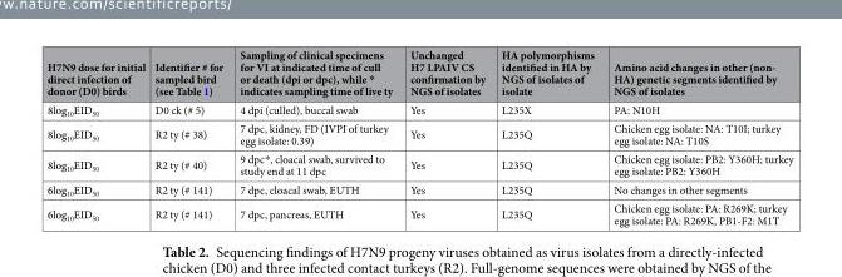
<table><thead><tr><td>H7N9 dose for initial direct infection of donor (D0) birds</td><td>Identifier # for sampled bird (see Table 1)</td><td>Sampling of clinical specimens for VI at indicated time of cull or death (dpi or dpc), while * indicates sampling time of live ty</td><td>Unchanged H7 LPAIV CS confirmation by NGS of isolates</td><td>HA polymorphisms identified in HA by NGS of isolates of isolate</td><td>Amino acid changes in other (non- HA) genetic segments identified by NGS of isolates</td></tr></thead><tbody><tr><td>8log<sub>10</sub>EID<sub>50</sub></td><td>D0 ck (# 5)</td><td>4 dpi (culled), buccal swab</td><td>Yes</td><td>L235X</td><td>PA: N10H</td></tr><tr><td>8log<sub>10</sub>EID<sub>50</sub></td><td>R2 ty (# 38)</td><td>7 dpc, kidney, FD (IVPI of turkey egg isolate: 0.39)</td><td>Yes</td><td>L235Q</td><td>Chicken egg isolate: NA: T10I; turkey egg isolate: NA: T10S</td></tr><tr><td>8log<sub>10</sub>EID<sub>50</sub></td><td>R2 ty (# 40)</td><td>9 dpc*, cloacal swab, survived to study end at 11 dpc</td><td>Yes</td><td>L235Q</td><td>Chicken egg isolate: PB2: Y360H; turkey egg isolate: PB2: Y360H</td></tr><tr><td>6log<sub>10</sub>EID<sub>50</sub></td><td>R2 ty (# 141)</td><td>7 dpc, cloacal swab, EUTH</td><td>Yes</td><td>L235Q</td><td>No changes in other segments</td></tr><tr><td>6log<sub>10</sub>EID<sub>50</sub></td><td>R2 ty (# 141)</td><td>7 dpc, pancreas, EUTH</td><td>Yes</td><td>L235Q</td><td>Chicken egg isolate: PA: R269K; turkey egg isolate: PA: R269K, PB1-F2: M1T</td></tr></tbody></table>